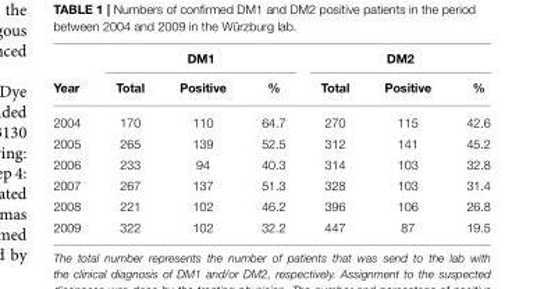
<table><thead><tr><td rowspan="2">Year</td><td colspan="3">DM1</td><td colspan="3">DM2</td></tr><tr><td>Total</td><td>Positive</td><td>%</td><td>Total</td><td>Positive</td><td>%</td></tr></thead><tbody><tr><td>2004</td><td>170</td><td>110</td><td>64.7</td><td>270</td><td>115</td><td>42.6</td></tr><tr><td>2005</td><td>265</td><td>139</td><td>52.5</td><td>312</td><td>141</td><td>45.2</td></tr><tr><td>2006</td><td>233</td><td>94</td><td>40.3</td><td>314</td><td>103</td><td>32.8</td></tr><tr><td>2007</td><td>267</td><td>137</td><td>51.3</td><td>328</td><td>103</td><td>31.4</td></tr><tr><td>2008</td><td>221</td><td>102</td><td>46.2</td><td>396</td><td>106</td><td>26.8</td></tr><tr><td>2009</td><td>322</td><td>102</td><td>32.2</td><td>447</td><td>87</td><td>19.5</td></tr></tbody></table>